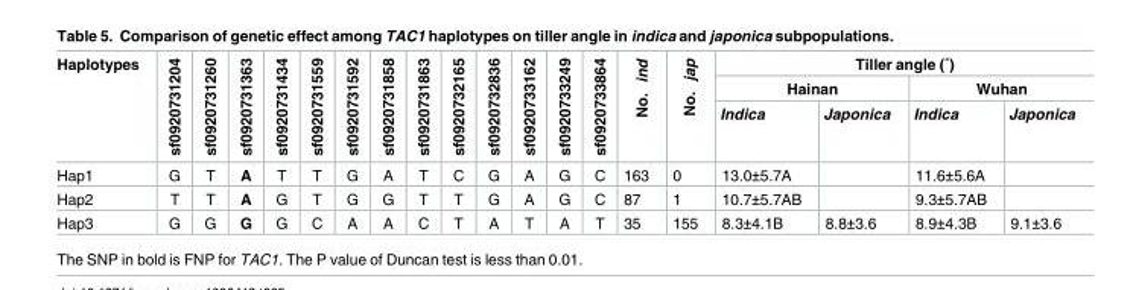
<table><thead><tr><td rowspan="3">Haplotypes</td><td rowspan="3">sf0920731204</td><td rowspan="3">sf0920731260</td><td rowspan="3">sf0920731363</td><td rowspan="3">sf0920731434</td><td rowspan="3">sf0920731559</td><td rowspan="3">sf0920731592</td><td rowspan="3">sf0920731858</td><td rowspan="3">sf0920731863</td><td rowspan="3">sf0920732165</td><td rowspan="3">sf0920732836</td><td rowspan="3">sf0920733162</td><td rowspan="3">sf0920733249</td><td rowspan="3">sf0920733864</td><td rowspan="3">No. ind</td><td rowspan="3">No. jap</td><td colspan="4">Tiller angle (˚)</td></tr><tr><td colspan="2">Hainan</td><td colspan="2">Wuhan</td></tr><tr><td>Indica</td><td>Japonica</td><td>Indica</td><td>Japonica</td></tr></thead><tbody><tr><td>Hap1</td><td>G</td><td>T</td><td>A</td><td>T</td><td>T</td><td>G</td><td>A</td><td>T</td><td>C</td><td>G</td><td>A</td><td>G</td><td>C</td><td>163</td><td>0</td><td>13.0±5.7A</td><td></td><td>11.6±5.6A</td><td></td></tr><tr><td>Hap2</td><td>T</td><td>T</td><td>A</td><td>G</td><td>T</td><td>G</td><td>G</td><td>T</td><td>T</td><td>G</td><td>A</td><td>G</td><td>C</td><td>87</td><td>1</td><td>10.7±5.7AB</td><td></td><td>9.3±5.7AB</td><td></td></tr><tr><td>Hap3</td><td>G</td><td>G</td><td>G</td><td>G</td><td>C</td><td>A</td><td>A</td><td>C</td><td>T</td><td>A</td><td>T</td><td>A</td><td>T</td><td>35</td><td>155</td><td>8.3±4.1B</td><td>8.8±3.6</td><td>8.9±4.3B</td><td>9.1±3.6</td></tr></tbody></table>